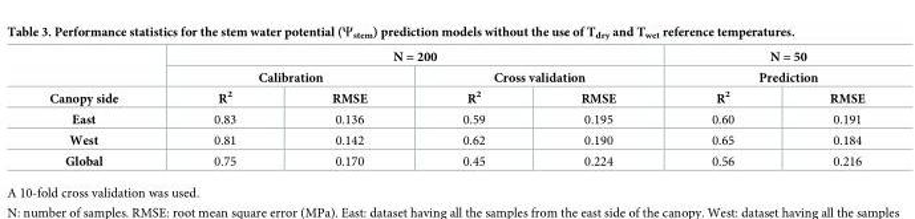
<table><thead><tr><td rowspan="3">Canopy side</td><td colspan="4">N = 200</td><td rowspan="2" colspan="2">N = 50 Prediction</td></tr><tr><td colspan="2">Calibration</td><td colspan="2">Cross validation</td></tr><tr><td>R<sup>2</sup></td><td>RMSE</td><td>R<sup>2</sup></td><td>RMSE</td><td>R<sup>2</sup></td><td>RMSE</td></tr></thead><tbody><tr><td>East</td><td>0.83</td><td>0.136</td><td>0.59</td><td>0.195</td><td>0.60</td><td>0.191</td></tr><tr><td>West</td><td>0.81</td><td>0.142</td><td>0.62</td><td>0.190</td><td>0.65</td><td>0.184</td></tr><tr><td>Global</td><td>0.75</td><td>0.170</td><td>0.45</td><td>0.224</td><td>0.56</td><td>0.216</td></tr></tbody></table>